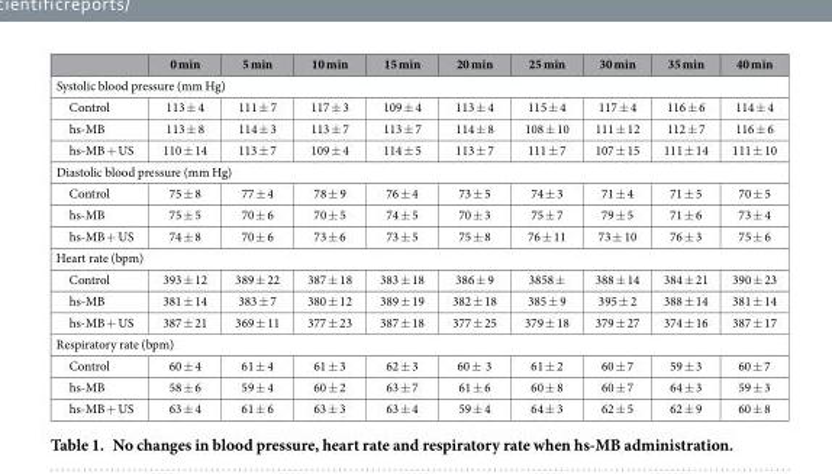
<table><thead><tr><td></td><td>0 min</td><td>5 min</td><td>10 min</td><td>15 min</td><td>20 min</td><td>25 min</td><td>30 min</td><td>35 min</td><td>40 min</td></tr></thead><tbody><tr><td colspan="10">Systolic blood pressure (mm Hg)</td></tr><tr><td>Control</td><td>113 ± 4</td><td>111 ± 7</td><td>117 ± 3</td><td>109 ± 4</td><td>113 ± 4</td><td>115 ± 4</td><td>117 ± 4</td><td>116 ± 6</td><td>114 ± 4</td></tr><tr><td>hs-MB</td><td>113 ± 8</td><td>114 ± 3</td><td>113 ± 7</td><td>113 ± 7</td><td>114 ± 8</td><td>108 ± 10</td><td>111 ± 12</td><td>112 ± 7</td><td>116 ± 6</td></tr><tr><td>hs-MB + US</td><td>110 ± 14</td><td>113 ± 7</td><td>109 ± 4</td><td>114 ± 5</td><td>113 ± 7</td><td>111 ± 7</td><td>107 ± 15</td><td>111 ± 14</td><td>111 ± 10</td></tr><tr><td colspan="10">Diastolic blood pressure (mm Hg)</td></tr><tr><td>Control</td><td>75 ± 8</td><td>77 ± 4</td><td>78 ± 9</td><td>76 ± 4</td><td>73 ± 5</td><td>74 ± 3</td><td>71 ± 4</td><td>71 ± 5</td><td>70 ± 5</td></tr><tr><td>hs-MB</td><td>75 ± 5</td><td>70 ± 6</td><td>70 ± 5</td><td>74 ± 5</td><td>70 ± 3</td><td>75 ± 7</td><td>79 ± 5</td><td>71 ± 6</td><td>73 ± 4</td></tr><tr><td>hs-MB + US</td><td>74 ± 8</td><td>70 ± 6</td><td>73 ± 6</td><td>73 ± 5</td><td>75 ± 8</td><td>76 ± 11</td><td>73 ± 10</td><td>76 ± 3</td><td>75 ± 6</td></tr><tr><td colspan="10">Heart rate (bpm)</td></tr><tr><td>Control</td><td>393 ± 12</td><td>389 ± 22</td><td>387 ± 18</td><td>383 ± 18</td><td>386 ± 9</td><td>3858 ±</td><td>388 ± 14</td><td>384 ± 21</td><td>390 ± 23</td></tr><tr><td>hs-MB</td><td>381 ± 14</td><td>383 ± 7</td><td>380 ± 12</td><td>389 ± 19</td><td>382 ± 18</td><td>385 ± 9</td><td>395 ± 2</td><td>388 ± 14</td><td>381 ± 14</td></tr><tr><td>hs-MB + US</td><td>387 ± 21</td><td>369 ± 11</td><td>377 ± 23</td><td>387 ± 18</td><td>377 ± 25</td><td>379 ± 18</td><td>379 ± 27</td><td>374 ± 16</td><td>387 ± 17</td></tr><tr><td colspan="10">Respiratory rate (bpm)</td></tr><tr><td>Control</td><td>60 ± 4</td><td>61 ± 4</td><td>61 ± 3</td><td>62 ± 3</td><td>60 ± 3</td><td>61 ± 2</td><td>60 ± 7</td><td>59 ± 3</td><td>60 ± 7</td></tr><tr><td>hs-MB</td><td>58 ± 6</td><td>59 ± 4</td><td>60 ± 2</td><td>63 ± 7</td><td>61 ± 6</td><td>60 ± 8</td><td>60 ± 7</td><td>64 ± 3</td><td>59 ± 3</td></tr><tr><td>hs-MB + US</td><td>63 ± 4</td><td>61 ± 6</td><td>63 ± 3</td><td>63 ± 4</td><td>59 ± 4</td><td>64 ± 3</td><td>62 ± 5</td><td>62 ± 9</td><td>60 ± 8</td></tr></tbody></table>